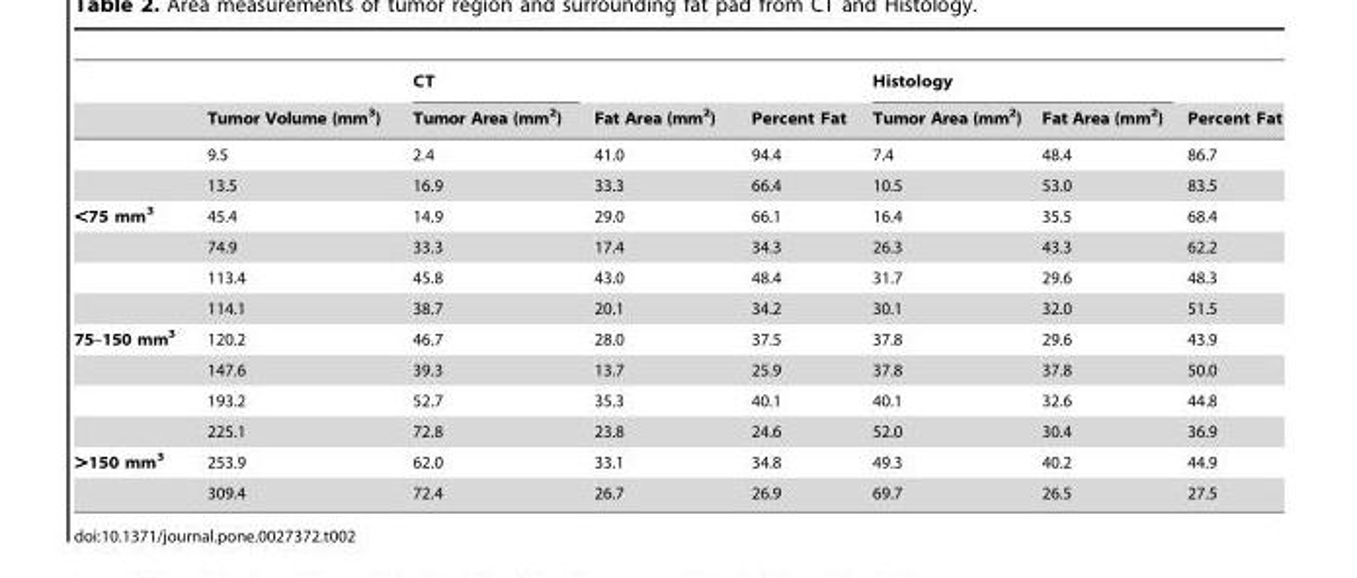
<table><thead><tr><td rowspan="2"></td><td rowspan="2">Tumor Volume (mm<sup>3</sup>)</td><td rowspan="2">CT Tumor Area (mm<sup>2</sup>)</td><td rowspan="2">Fat Area (mm<sup>2</sup>)</td><td rowspan="2">Percent Fat</td><td colspan="2">Histology</td><td rowspan="2">Percent Fat</td></tr><tr><td>Tumor Area (mm<sup>2</sup>)</td><td>Fat Area (mm<sup>2</sup>)</td></tr></thead><tbody><tr><td></td><td>9.5</td><td>2.4</td><td>41.0</td><td>94.4</td><td>7.4</td><td>48.4</td><td>86.7</td></tr><tr><td></td><td>13.5</td><td>16.9</td><td>33.3</td><td>66.4</td><td>10.5</td><td>53.0</td><td>83.5</td></tr><tr><td rowspan="4">&lt;75 mm<sup>3</sup></td><td>45.4</td><td>14.9</td><td>29.0</td><td>66.1</td><td>16.4</td><td>35.5</td><td>68.4</td></tr><tr><td>74.9</td><td>33.3</td><td>17.4</td><td>34.3</td><td>26.3</td><td>43.3</td><td>62.2</td></tr><tr><td>113.4</td><td>45.8</td><td>43.0</td><td>48.4</td><td>31.7</td><td>29.6</td><td>48.3</td></tr><tr><td>114.1</td><td>38.7</td><td>20.1</td><td>34.2</td><td>30.1</td><td>32.0</td><td>51.5</td></tr><tr><td rowspan="4">75–150 mm<sup>3</sup></td><td>120.2</td><td>46.7</td><td>28.0</td><td>37.5</td><td>37.8</td><td>29.6</td><td>43.9</td></tr><tr><td>147.6</td><td>39.3</td><td>13.7</td><td>25.9</td><td>37.8</td><td>37.8</td><td>50.0</td></tr><tr><td>193.2</td><td>52.7</td><td>35.3</td><td>40.1</td><td>40.1</td><td>32.6</td><td>44.8</td></tr><tr><td>225.1</td><td>72.8</td><td>23.8</td><td>24.6</td><td>52.0</td><td>30.4</td><td>36.9</td></tr><tr><td rowspan="2">&gt;150 mm<sup>3</sup></td><td>253.9</td><td>62.0</td><td>33.1</td><td>34.8</td><td>49.3</td><td>40.2</td><td>44.9</td></tr><tr><td>309.4</td><td>72.4</td><td>26.7</td><td>26.9</td><td>69.7</td><td>26.5</td><td>27.5</td></tr></tbody></table>